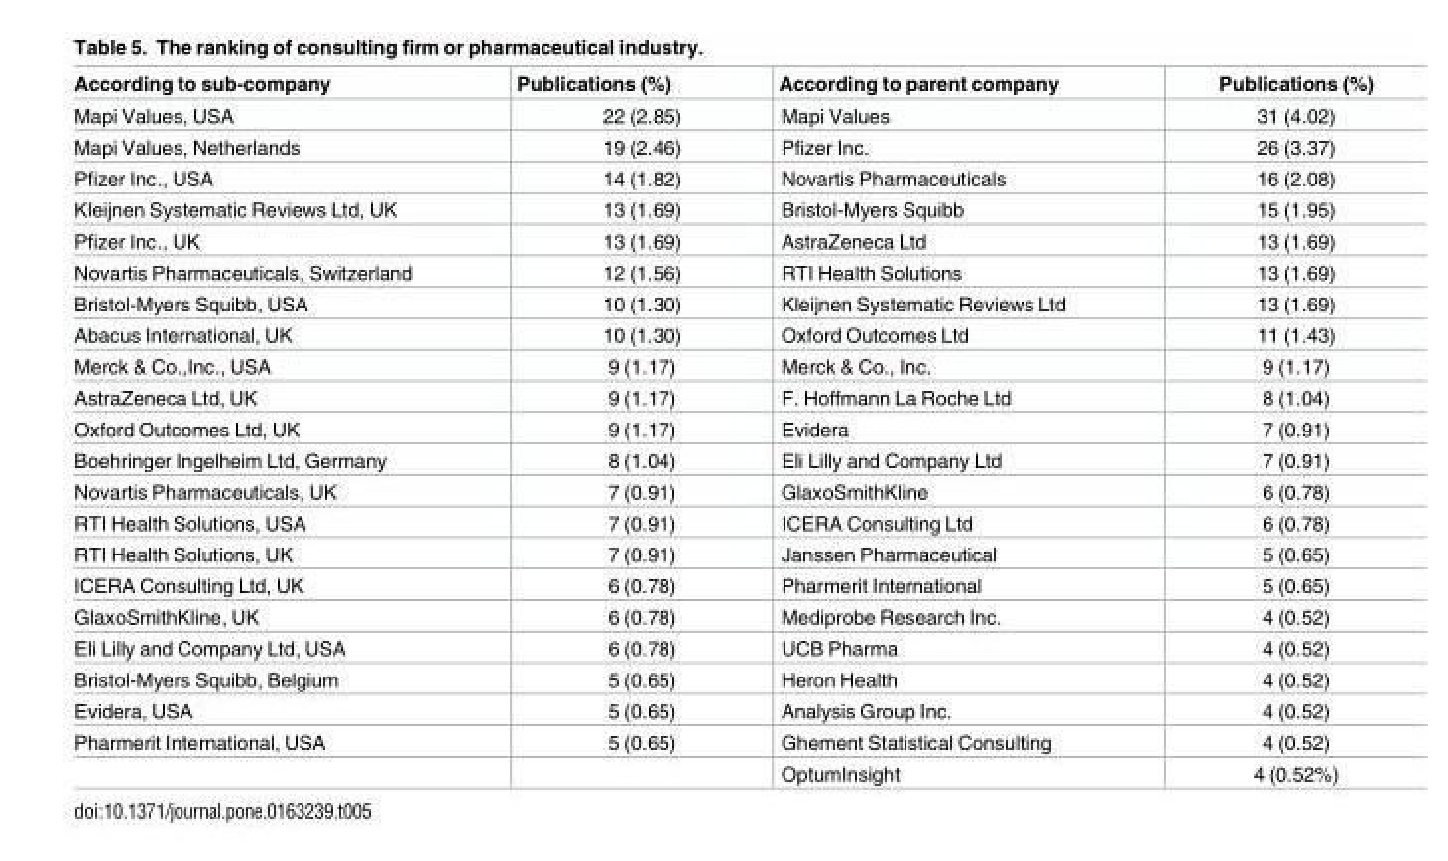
<table><thead><tr><td>According to sub-company</td><td>Publications (%)</td><td>According to parent company</td><td>Publications (%)</td></tr></thead><tbody><tr><td>Mapi Values, USA</td><td>22 (2.85)</td><td>Mapi Values</td><td>31 (4.02)</td></tr><tr><td>Mapi Values, Netherlands</td><td>19 (2.46)</td><td>Pfizer Inc.</td><td>26 (3.37)</td></tr><tr><td>Pfizer Inc., USA</td><td>14 (1.82)</td><td>Novartis Pharmaceuticals</td><td>16 (2.08)</td></tr><tr><td>Kleijnen Systematic Reviews Ltd, UK</td><td>13 (1.69)</td><td>Bristol-Myers Squibb</td><td>15 (1.95)</td></tr><tr><td>Pfizer Inc., UK</td><td>13 (1.69)</td><td>AstraZeneca Ltd</td><td>13 (1.69)</td></tr><tr><td>Novartis Pharmaceuticals, Switzerland</td><td>12 (1.56)</td><td>RTI Health Solutions</td><td>13 (1.69)</td></tr><tr><td>Bristol-Myers Squibb, USA</td><td>10 (1.30)</td><td>Kleijnen Systematic Reviews Ltd</td><td>13 (1.69)</td></tr><tr><td>Abacus International, UK</td><td>10 (1.30)</td><td>Oxford Outcomes Ltd</td><td>11 (1.43)</td></tr><tr><td>Merck &amp; Co.,Inc., USA</td><td>9 (1.17)</td><td>Merck &amp; Co., Inc.</td><td>9 (1.17)</td></tr><tr><td>AstraZeneca Ltd, UK</td><td>9 (1.17)</td><td>F. Hoffmann La Roche Ltd</td><td>8 (1.04)</td></tr><tr><td>Oxford Outcomes Ltd, UK</td><td>9 (1.17)</td><td>Evidera</td><td>7 (0.91)</td></tr><tr><td>Boehringer Ingelheim Ltd, Germany</td><td>8 (1.04)</td><td>Eli Lilly and Company Ltd</td><td>7 (0.91)</td></tr><tr><td>Novartis Pharmaceuticals, UK</td><td>7 (0.91)</td><td>GlaxoSmithKline</td><td>6 (0.78)</td></tr><tr><td>RTI Health Solutions, USA</td><td>7 (0.91)</td><td>ICERA Consulting Ltd</td><td>6 (0.78)</td></tr><tr><td>RTI Health Solutions, UK</td><td>7 (0.91)</td><td>Janssen Pharmaceutical</td><td>5 (0.65)</td></tr><tr><td>ICERA Consulting Ltd, UK</td><td>6 (0.78)</td><td>Pharmerit International</td><td>5 (0.65)</td></tr><tr><td>GlaxoSmithKline, UK</td><td>6 (0.78)</td><td>Mediprobe Research Inc.</td><td>4 (0.52)</td></tr><tr><td>Eli Lilly and Company Ltd, USA</td><td>6 (0.78)</td><td>UCB Pharma</td><td>4 (0.52)</td></tr><tr><td>Bristol-Myers Squibb, Belgium</td><td>5 (0.65)</td><td>Heron Health</td><td>4 (0.52)</td></tr><tr><td>Evidera, USA</td><td>5 (0.65)</td><td>Analysis Group Inc.</td><td>4 (0.52)</td></tr><tr><td rowspan="2">Pharmerit International, USA</td><td>5 (0.65)</td><td>Ghement Statistical Consulting</td><td>4 (0.52)</td></tr><tr><td></td><td>OptumInsight</td><td>4 (0.52%)</td></tr></tbody></table>